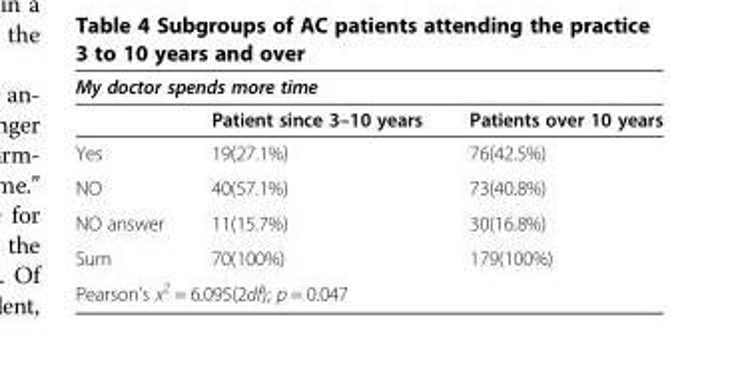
<table><thead><tr><td colspan="3">My doctor spends more time</td></tr><tr><td></td><td>Patient since 3–10 years</td><td>Patients over 10 years</td></tr></thead><tbody><tr><td>Yes</td><td>19(27.1%)</td><td>76(42.5%)</td></tr><tr><td>NO</td><td>40(57.1%)</td><td>73(40.8%)</td></tr><tr><td>NO answer</td><td>11(15.7%)</td><td>30(16.8%)</td></tr><tr><td>Sum</td><td>70(100%)</td><td>179(100%)</td></tr><tr><td colspan="3">Pearson’s x<sup>2</sup> = 6.095(2df); p = 0.047</td></tr></tbody></table>